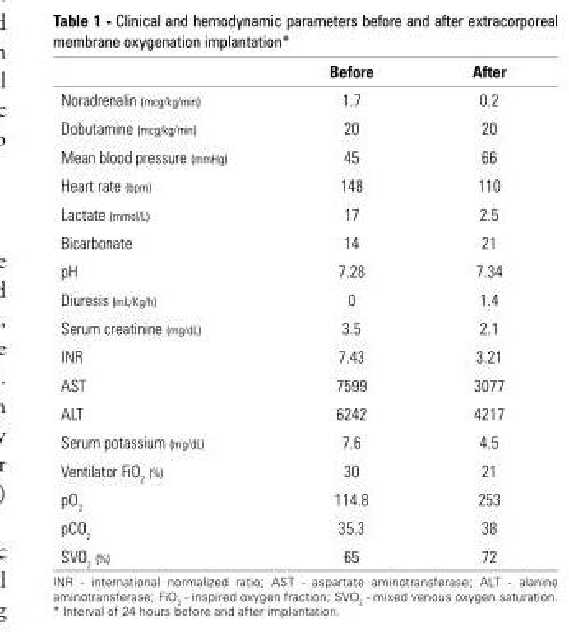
<table><thead><tr><td></td><td>Before</td><td>After</td></tr></thead><tbody><tr><td>Noradrenalin (mcg/kg/min)</td><td>1.7</td><td>0.2</td></tr><tr><td>Dobutamine (mcg/kg/min)</td><td>20</td><td>20</td></tr><tr><td>Mean blood pressure (mmHg)</td><td>45</td><td>66</td></tr><tr><td>Heart rate (bpm)</td><td>148</td><td>110</td></tr><tr><td>Lactate (mmol/L)</td><td>17</td><td>2.5</td></tr><tr><td>Bicarbonate</td><td>14</td><td>21</td></tr><tr><td>pH</td><td>7.28</td><td>7.34</td></tr><tr><td>Diuresis (mL/Kg/h)</td><td>0</td><td>1.4</td></tr><tr><td>Serum creatinine (mg/dL)</td><td>3.5</td><td>2.1</td></tr><tr><td>INR</td><td>7.43</td><td>3.21</td></tr><tr><td>AST</td><td>7599</td><td>3077</td></tr><tr><td>ALT</td><td>6242</td><td>4217</td></tr><tr><td>Serum potassium (mg/dL)</td><td>7.6</td><td>4.5</td></tr><tr><td>Ventilator FiO<sub>2</sub> (%)</td><td>30</td><td>21</td></tr><tr><td>pO<sub>2</sub></td><td>114.8</td><td>253</td></tr><tr><td>pCO2</td><td>35.3</td><td>38</td></tr><tr><td>SVO<sub>2</sub> (%)</td><td>65</td><td>72</td></tr></tbody></table>